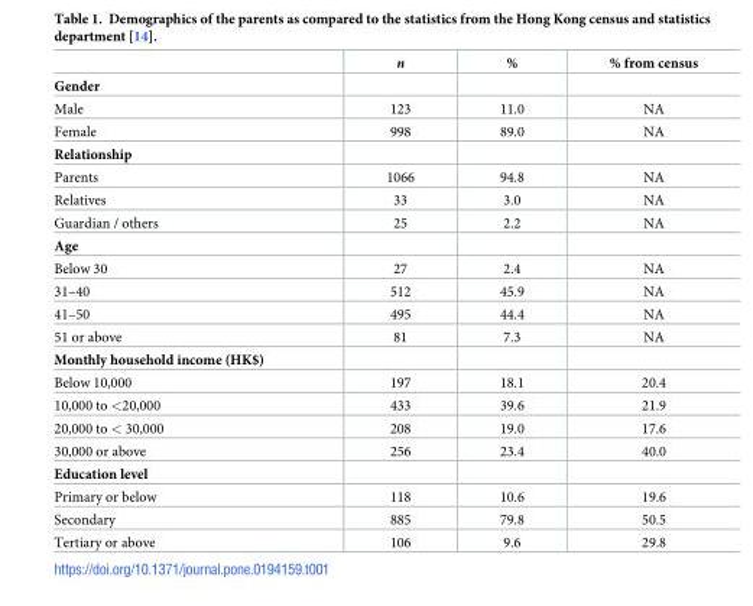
<table><thead><tr><td></td><td>n</td><td>%</td><td>% from census</td></tr></thead><tbody><tr><td colspan="4">Gender</td></tr><tr><td>Male</td><td>123</td><td>11.0</td><td>NA</td></tr><tr><td>Female</td><td>998</td><td>89.0</td><td>NA</td></tr><tr><td colspan="4">Relationship</td></tr><tr><td>Parents</td><td>1066</td><td>94.8</td><td>NA</td></tr><tr><td>Relatives</td><td>33</td><td>3.0</td><td>NA</td></tr><tr><td>Guardian / others</td><td>25</td><td>2.2</td><td>NA</td></tr><tr><td colspan="4">Age</td></tr><tr><td>Below 30</td><td>27</td><td>2.4</td><td>NA</td></tr><tr><td>31–40</td><td>512</td><td>45.9</td><td>NA</td></tr><tr><td>41–50</td><td>495</td><td>44.4</td><td>NA</td></tr><tr><td>51 or above</td><td>81</td><td>7.3</td><td>NA</td></tr><tr><td colspan="4">Monthly household income (HK$)</td></tr><tr><td>Below 10,000</td><td>197</td><td>18.1</td><td>20.4</td></tr><tr><td>10,000 to &lt;20,000</td><td>433</td><td>39.6</td><td>21.9</td></tr><tr><td>20,000 to &lt; 30,000</td><td>208</td><td>19.0</td><td>17.6</td></tr><tr><td>30,000 or above</td><td>256</td><td>23.4</td><td>40.0</td></tr><tr><td colspan="4">Education level</td></tr><tr><td>Primary or below</td><td>118</td><td>10.6</td><td>19.6</td></tr><tr><td>Secondary</td><td>885</td><td>79.8</td><td>50.5</td></tr><tr><td>Tertiary or above</td><td>106</td><td>9.6</td><td>29.8</td></tr></tbody></table>